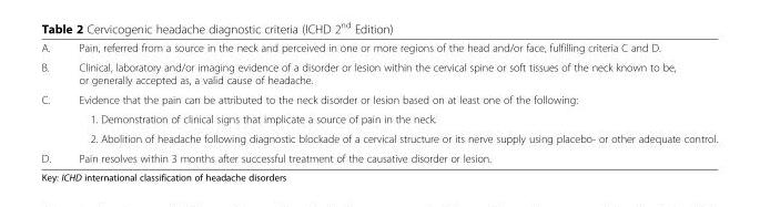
<table><tbody><tr><td>A.</td><td>Pain, referred from a source in the neck and perceived in one or more regions of the head and/or face, fulfilling criteria C and D.</td></tr><tr><td>B.</td><td>Clinical, laboratory and/or imaging evidence of a disorder or lesion within the cervical spine or soft tissues of the neck known to be, or generally accepted as, a valid cause of headache.</td></tr><tr><td rowspan="3">C.</td><td>Evidence that the pain can be attributed to the neck disorder or lesion based on at least one of the following:</td></tr><tr><td>1. Demonstration of clinical signs that implicate a source of pain in the neck.</td></tr><tr><td>2. Abolition of headache following diagnostic blockade of a cervical structure or its nerve supply using placebo- or other adequate control.</td></tr><tr><td>D.</td><td>Pain resolves within 3 months after successful treatment of the causative disorder or lesion.</td></tr></tbody></table>